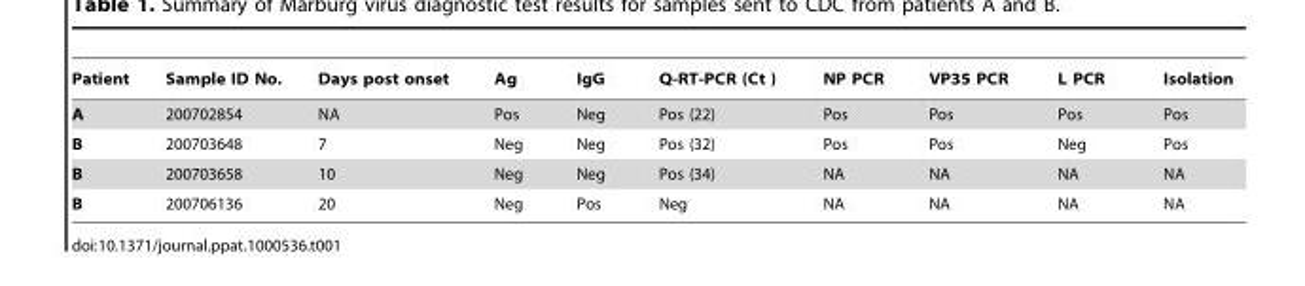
<table><thead><tr><td>Patient</td><td>Sample ID No.</td><td>Days post onset</td><td>Ag</td><td>IgG</td><td>Q-RT-PCR (Ct )</td><td>NP PCR</td><td>VP35 PCR</td><td>L PCR</td><td>Isolation</td></tr></thead><tbody><tr><td>A</td><td>200702854</td><td>NA</td><td>Pos</td><td>Neg</td><td>Pos (22)</td><td>Pos</td><td>Pos</td><td>Pos</td><td>Pos</td></tr><tr><td>B</td><td>200703648</td><td>7</td><td>Neg</td><td>Neg</td><td>Pos (32)</td><td>Pos</td><td>Pos</td><td>Neg</td><td>Pos</td></tr><tr><td>B</td><td>200703658</td><td>10</td><td>Neg</td><td>Neg</td><td>Pos (34)</td><td>NA</td><td>NA</td><td>NA</td><td>NA</td></tr><tr><td>B</td><td>200706136</td><td>20</td><td>Neg</td><td>Pos</td><td>Neg</td><td>NA</td><td>NA</td><td>NA</td><td>NA</td></tr></tbody></table>